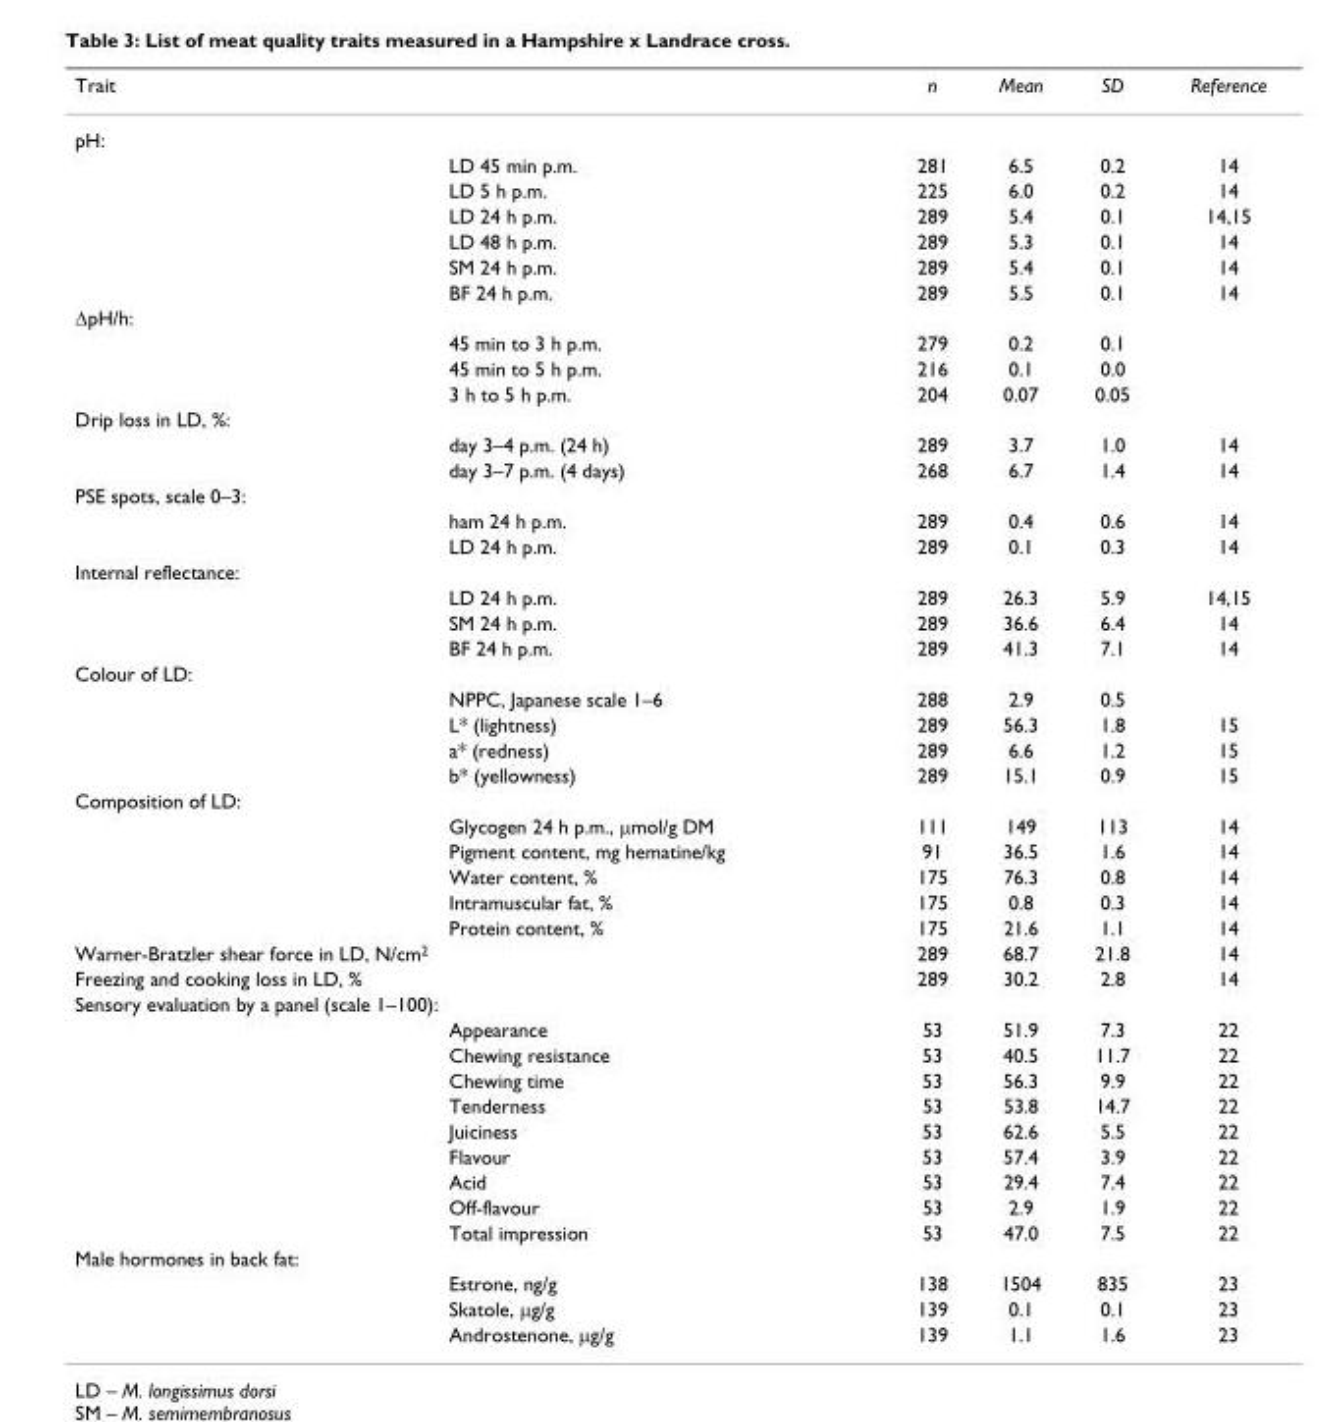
<table><thead><tr><td>Trait</td><td></td><td>n</td><td>Mean</td><td>SD</td><td>Reference</td></tr></thead><tbody><tr><td colspan="6">pH:</td></tr><tr><td></td><td>LD 45 min p.m.</td><td>281</td><td>6.5</td><td>0.2</td><td>14</td></tr><tr><td></td><td>LD 5 h p.m.</td><td>225</td><td>6.0</td><td>0.2</td><td>14</td></tr><tr><td></td><td>LD 24 h p.m.</td><td>289</td><td>5.4</td><td>0.1</td><td>14,15</td></tr><tr><td></td><td>LD 48 h p.m.</td><td>289</td><td>5.3</td><td>0.1</td><td>14</td></tr><tr><td></td><td>SM 24 h p.m.</td><td>289</td><td>5.4</td><td>0.1</td><td>14</td></tr><tr><td></td><td>BF 24 h p.m.</td><td>289</td><td>5.5</td><td>0.1</td><td>14</td></tr><tr><td colspan="6">∆pH/h:</td></tr><tr><td></td><td>45 min to 3 h p.m.</td><td>279</td><td>0.2</td><td>0.1</td><td></td></tr><tr><td></td><td>45 min to 5 h p.m.</td><td>216</td><td>0.1</td><td>0.0</td><td></td></tr><tr><td></td><td>3 h to 5 h p.m.</td><td>204</td><td>0.07</td><td>0.05</td><td></td></tr><tr><td colspan="6">Drip loss in LD, %:</td></tr><tr><td></td><td>day 3–4 p.m. (24 h)</td><td>289</td><td>3.7</td><td>1.0</td><td>14</td></tr><tr><td></td><td>day 3–7 p.m. (4 days)</td><td>268</td><td>6.7</td><td>1.4</td><td>14</td></tr><tr><td colspan="6">PSE spots, scale 0–3:</td></tr><tr><td></td><td>ham 24 h p.m.</td><td>289</td><td>0.4</td><td>0.6</td><td>14</td></tr><tr><td></td><td>LD 24 h p.m.</td><td>289</td><td>0.1</td><td>0.3</td><td>14</td></tr><tr><td colspan="6">Internal reflectance:</td></tr><tr><td></td><td>LD 24 h p.m.</td><td>289</td><td>26.3</td><td>5.9</td><td>14,15</td></tr><tr><td></td><td>SM 24 h p.m.</td><td>289</td><td>36.6</td><td>6.4</td><td>14</td></tr><tr><td></td><td>BF 24 h p.m.</td><td>289</td><td>41.3</td><td>7.1</td><td>14</td></tr><tr><td colspan="6">Colour of LD:</td></tr><tr><td></td><td>NPPC, Japanese scale 1–6</td><td>288</td><td>2.9</td><td>0.5</td><td></td></tr><tr><td></td><td>L* (lightness)</td><td>289</td><td>56.3</td><td>1.8</td><td>15</td></tr><tr><td></td><td>a* (redness)</td><td>289</td><td>6.6</td><td>1.2</td><td>15</td></tr><tr><td></td><td>b* (yellowness)</td><td>289</td><td>15.1</td><td>0.9</td><td>15</td></tr><tr><td colspan="6">Composition of LD:</td></tr><tr><td></td><td>Glycogen 24 h p.m., µmol/g DM</td><td>111</td><td>149</td><td>113</td><td>14</td></tr><tr><td></td><td>Pigment content, mg hematine/kg</td><td>91</td><td>36.5</td><td>1.6</td><td>14</td></tr><tr><td></td><td>Water content, %</td><td>175</td><td>76.3</td><td>0.8</td><td>14</td></tr><tr><td></td><td>Intramuscular fat, %</td><td>175</td><td>0.8</td><td>0.3</td><td>14</td></tr><tr><td></td><td>Protein content, %</td><td>175</td><td>21.6</td><td>1.1</td><td>14</td></tr><tr><td colspan="2">Warner-Bratzler shear force in LD, N/cm<sup>2</sup></td><td>289</td><td>68.7</td><td>21.8</td><td>14</td></tr><tr><td colspan="2">Freezing and cooking loss in LD, %</td><td>289</td><td>30.2</td><td>2.8</td><td>14</td></tr><tr><td colspan="6">Sensory evaluation by a panel (scale 1–100):</td></tr><tr><td></td><td>Appearance</td><td>53</td><td>51.9</td><td>7.3</td><td>22</td></tr><tr><td></td><td>Chewing resistance</td><td>53</td><td>40.5</td><td>11.7</td><td>22</td></tr><tr><td></td><td>Chewing time</td><td>53</td><td>56.3</td><td>9.9</td><td>22</td></tr><tr><td></td><td>Tenderness</td><td>53</td><td>53.8</td><td>14.7</td><td>22</td></tr><tr><td></td><td>Juiciness</td><td>53</td><td>62.6</td><td>5.5</td><td>22</td></tr><tr><td></td><td>Flavour</td><td>53</td><td>57.4</td><td>3.9</td><td>22</td></tr><tr><td></td><td>Acid</td><td>53</td><td>29.4</td><td>7.4</td><td>22</td></tr><tr><td></td><td>Off-flavour</td><td>53</td><td>2.9</td><td>1.9</td><td>22</td></tr><tr><td></td><td>Total impression</td><td>53</td><td>47.0</td><td>7.5</td><td>22</td></tr><tr><td colspan="6">Male hormones in back fat:</td></tr><tr><td></td><td>Estrone, ng/g</td><td>138</td><td>1504</td><td>835</td><td>23</td></tr><tr><td></td><td>Skatole, µg/g</td><td>139</td><td>0.1</td><td>0.1</td><td>23</td></tr><tr><td></td><td>Androstenone, µg/g</td><td>139</td><td>1.1</td><td>1.6</td><td>23</td></tr></tbody></table>